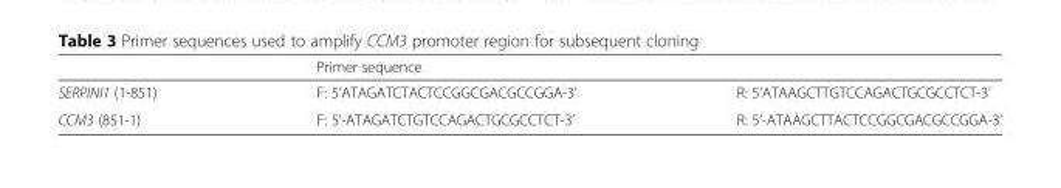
<table><thead><tr><td rowspan="2">SERPINI1 (1-851)</td><td colspan="2">Primer sequence</td></tr><tr><td>F: 5’ATAGATCTACTCCGGCGACGCCGGA-3&#x27;</td><td>R: 5’ATAAGCTTGTCCAGACTGCGCCTCT-3’</td></tr></thead><tbody><tr><td>CCM3 (851-1)</td><td>F: 5’-ATAGATCTGTCCAGACTGCGCCTCT-3’</td><td>R: 5’-ATAAGCTTACTCCGGCGACGCCGGA-3’</td></tr></tbody></table>